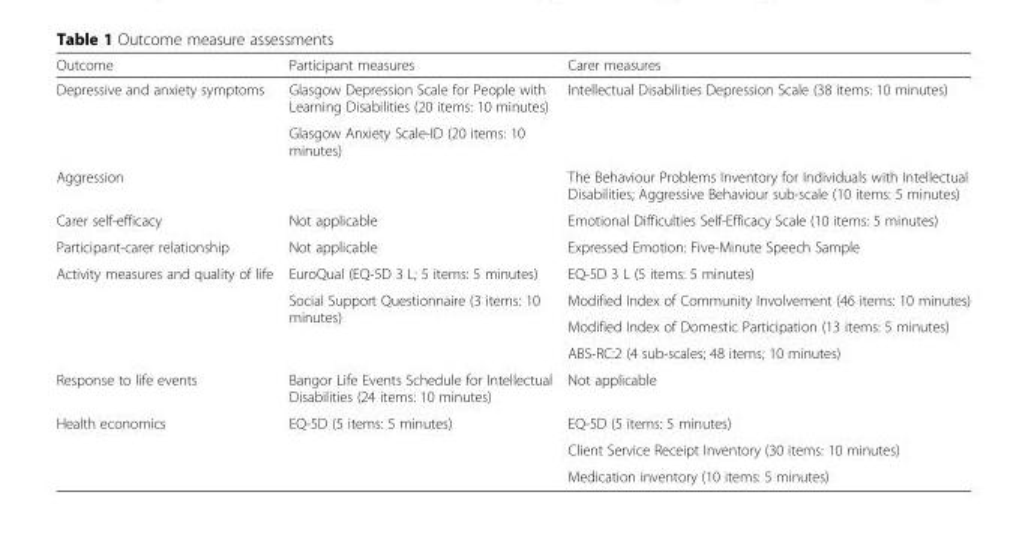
<table><thead><tr><td>Outcome</td><td>Participant measures</td><td>Carer measures</td></tr></thead><tbody><tr><td rowspan="2">Depressive and anxiety symptoms</td><td>Glasgow Depression Scale for People with Learning Disabilities (20 items: 10 minutes)</td><td rowspan="2">Intellectual Disabilities Depression Scale (38 items: 10 minutes)</td></tr><tr><td>Glasgow Anxiety Scale-ID (20 items: 10 minutes)</td></tr><tr><td>Aggression</td><td></td><td>The Behaviour Problems Inventory for Individuals with Intellectual Disabilities; Aggressive Behaviour sub-scale (10 items: 5 minutes)</td></tr><tr><td>Carer self-efficacy</td><td>Not applicable</td><td>Emotional Difficulties Self-Efficacy Scale (10 items: 5 minutes)</td></tr><tr><td>Participant-carer relationship</td><td>Not applicable</td><td>Expressed Emotion: Five-Minute Speech Sample</td></tr><tr><td rowspan="4">Activity measures and quality of life</td><td>EuroQual (EQ-5D 3 L; 5 items: 5 minutes)</td><td>EQ-5D 3 L (5 items: 5 minutes)</td></tr><tr><td rowspan="3">Social Support Questionnaire (3 items: 10 minutes)</td><td>Modified Index of Community Involvement (46 items: 10 minutes)</td></tr><tr><td>Modified Index of Domestic Participation (13 items: 5 minutes)</td></tr><tr><td>ABS-RC:2 (4 sub-scales; 48 items; 10 minutes)</td></tr><tr><td>Response to life events</td><td>Bangor Life Events Schedule for Intellectual Disabilities (24 items: 10 minutes)</td><td>Not applicable</td></tr><tr><td rowspan="3">Health economics</td><td rowspan="3">EQ-5D (5 items: 5 minutes)</td><td>EQ-5D (5 items: 5 minutes)</td></tr><tr><td>Client Service Receipt Inventory (30 items: 10 minutes)</td></tr><tr><td>Medication inventory (10 items: 5 minutes)</td></tr></tbody></table>